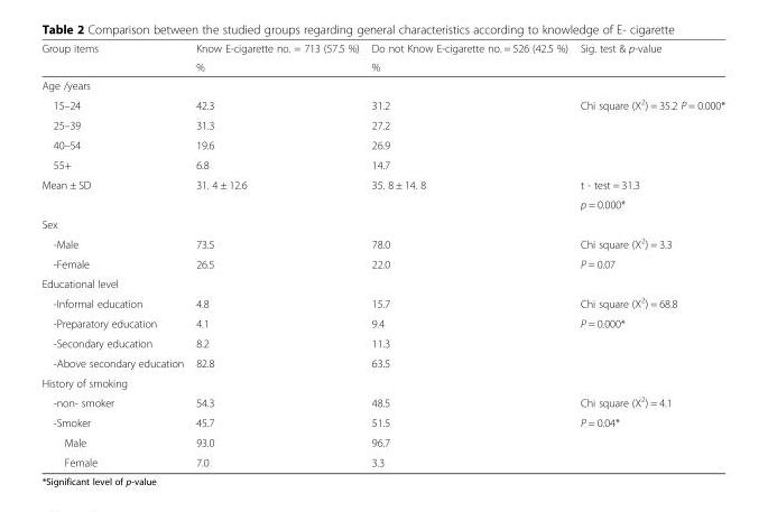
<table><thead><tr><td rowspan="2">Group items</td><td rowspan="2">Know E-cigarette no. = 713 (57.5 %) %</td><td rowspan="2">Do not Know E-cigarette no. = 526 (42.5 %) %</td><td rowspan="2">Sig. test &amp; p-value</td></tr><tr></tr></thead><tbody><tr><td colspan="4">Age /years</td></tr><tr><td>15–24</td><td>42.3</td><td>31.2</td><td rowspan="4">Chi square (X<sup>2</sup>) = 35.2 P = 0.000*</td></tr><tr><td>25–39</td><td>31.3</td><td>27.2</td></tr><tr><td>40–54</td><td>19.6</td><td>26.9</td></tr><tr><td>55+</td><td>6.8</td><td>14.7</td></tr><tr><td rowspan="2">Mean ± SD</td><td rowspan="2">31. 4 ± 12.6</td><td rowspan="2">35. 8 ± 14. 8</td><td>t - test = 31.3</td></tr><tr><td>p = 0.000*</td></tr><tr><td colspan="4">Sex</td></tr><tr><td>-Male</td><td>73.5</td><td>78.0</td><td>Chi square (X<sup>2</sup>) = 3.3</td></tr><tr><td>-Female</td><td>26.5</td><td>22.0</td><td>P = 0.07</td></tr><tr><td colspan="4">Educational level</td></tr><tr><td>-Informal education</td><td>4.8</td><td>15.7</td><td>Chi square (X<sup>2</sup>) = 68.8</td></tr><tr><td>-Preparatory education</td><td>4.1</td><td>9.4</td><td rowspan="3">P = 0.000*</td></tr><tr><td>-Secondary education</td><td>8.2</td><td>11.3</td></tr><tr><td>-Above secondary education</td><td>82.8</td><td>63.5</td></tr><tr><td colspan="4">History of smoking</td></tr><tr><td>-non- smoker</td><td>54.3</td><td>48.5</td><td>Chi square (X<sup>2</sup>) = 4.1</td></tr><tr><td>-Smoker</td><td>45.7</td><td>51.5</td><td rowspan="3">P = 0.04*</td></tr><tr><td>Male</td><td>93.0</td><td>96.7</td></tr><tr><td>Female</td><td>7.0</td><td>3.3</td></tr></tbody></table>